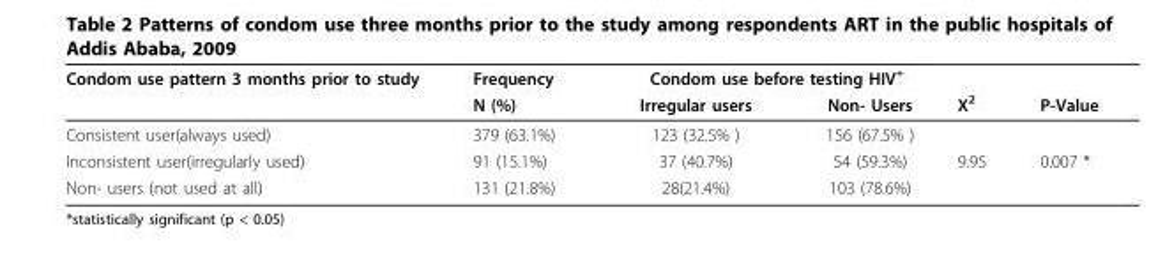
<table><thead><tr><td rowspan="2">Condom use pattern 3 months prior to study</td><td rowspan="2">Frequency N (%)</td><td colspan="2">Condom use before testing HIV<sup>+</sup></td><td rowspan="2">X<sup>2</sup></td><td rowspan="2">P-Value</td></tr><tr><td>Irregular users</td><td>Non- Users</td></tr></thead><tbody><tr><td>Consistent user(always used)</td><td>379 (63.1%)</td><td>123 (32.5% )</td><td>156 (67.5% )</td><td></td><td></td></tr><tr><td>Inconsistent user(irregularly used)</td><td>91 (15.1%)</td><td>37 (40.7%)</td><td>54 (59.3%)</td><td>9.95</td><td>0.007 *</td></tr><tr><td>Non- users (not used at all)</td><td>131 (21.8%)</td><td>28(21.4%)</td><td>103 (78.6%)</td><td></td><td></td></tr></tbody></table>